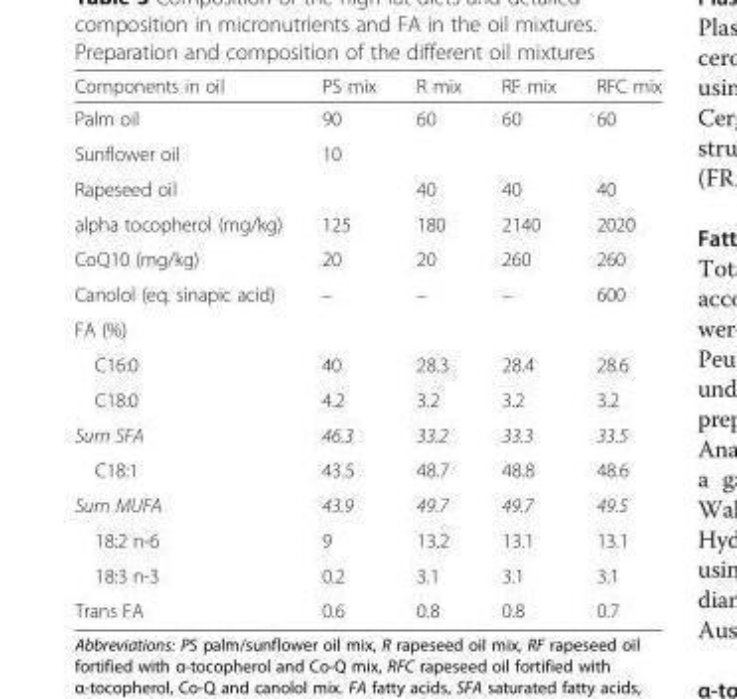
<table><thead><tr><td>Components in oil</td><td>PS mix</td><td>R mix</td><td>RF mix</td><td>RFC mix</td></tr></thead><tbody><tr><td>Palm oil</td><td>90</td><td>60</td><td>60</td><td>60</td></tr><tr><td>Sunflower oil</td><td>10</td><td></td><td></td><td></td></tr><tr><td>Rapeseed oil</td><td></td><td>40</td><td>40</td><td>40</td></tr><tr><td>alpha tocopherol (mg/kg)</td><td>125</td><td>180</td><td>2140</td><td>2020</td></tr><tr><td>CoQ10 (mg/kg)</td><td>20</td><td>20</td><td>260</td><td>260</td></tr><tr><td>Canolol (eq. sinapic acid)</td><td>–</td><td>–</td><td>–</td><td>600</td></tr><tr><td colspan="5">FA (%)</td></tr><tr><td>C16:0</td><td>40</td><td>28.3</td><td>28.4</td><td>28.6</td></tr><tr><td>C18:0</td><td>4.2</td><td>3.2</td><td>3.2</td><td>3.2</td></tr><tr><td>Sum SFA</td><td>46.3</td><td>33.2</td><td>33.3</td><td>33.5</td></tr><tr><td>C18:1</td><td>43.5</td><td>48.7</td><td>48.8</td><td>48.6</td></tr><tr><td>Sum MUFA</td><td>43.9</td><td>49.7</td><td>49.7</td><td>49.5</td></tr><tr><td>18:2 n-6</td><td>9</td><td>13.2</td><td>13.1</td><td>13.1</td></tr><tr><td>18:3 n-3</td><td>0.2</td><td>3.1</td><td>3.1</td><td>3.1</td></tr><tr><td>Trans FA</td><td>0.6</td><td>0.8</td><td>0.8</td><td>0.7</td></tr></tbody></table>